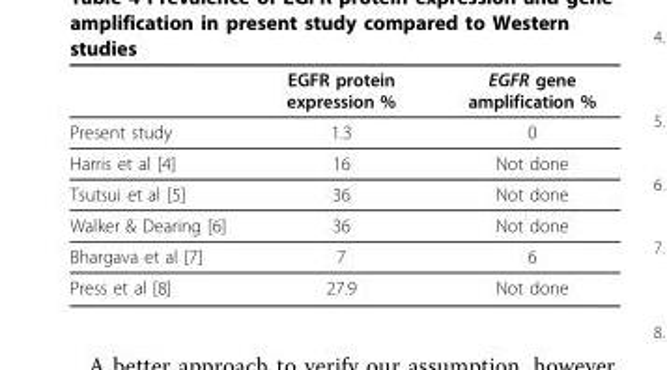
<table><thead><tr><td></td><td>EGFR protein expression %</td><td>EGFR gene amplification %</td></tr></thead><tbody><tr><td>Present study</td><td>1.3</td><td>0</td></tr><tr><td>Harris et al [4]</td><td>16</td><td>Not done</td></tr><tr><td>Tsutsui et al [5]</td><td>36</td><td>Not done</td></tr><tr><td>Walker &amp; Dearing [6]</td><td>36</td><td>Not done</td></tr><tr><td>Bhargava et al [7]</td><td>7</td><td>6</td></tr><tr><td>Press et al [8]</td><td>27.9</td><td>Not done</td></tr></tbody></table>